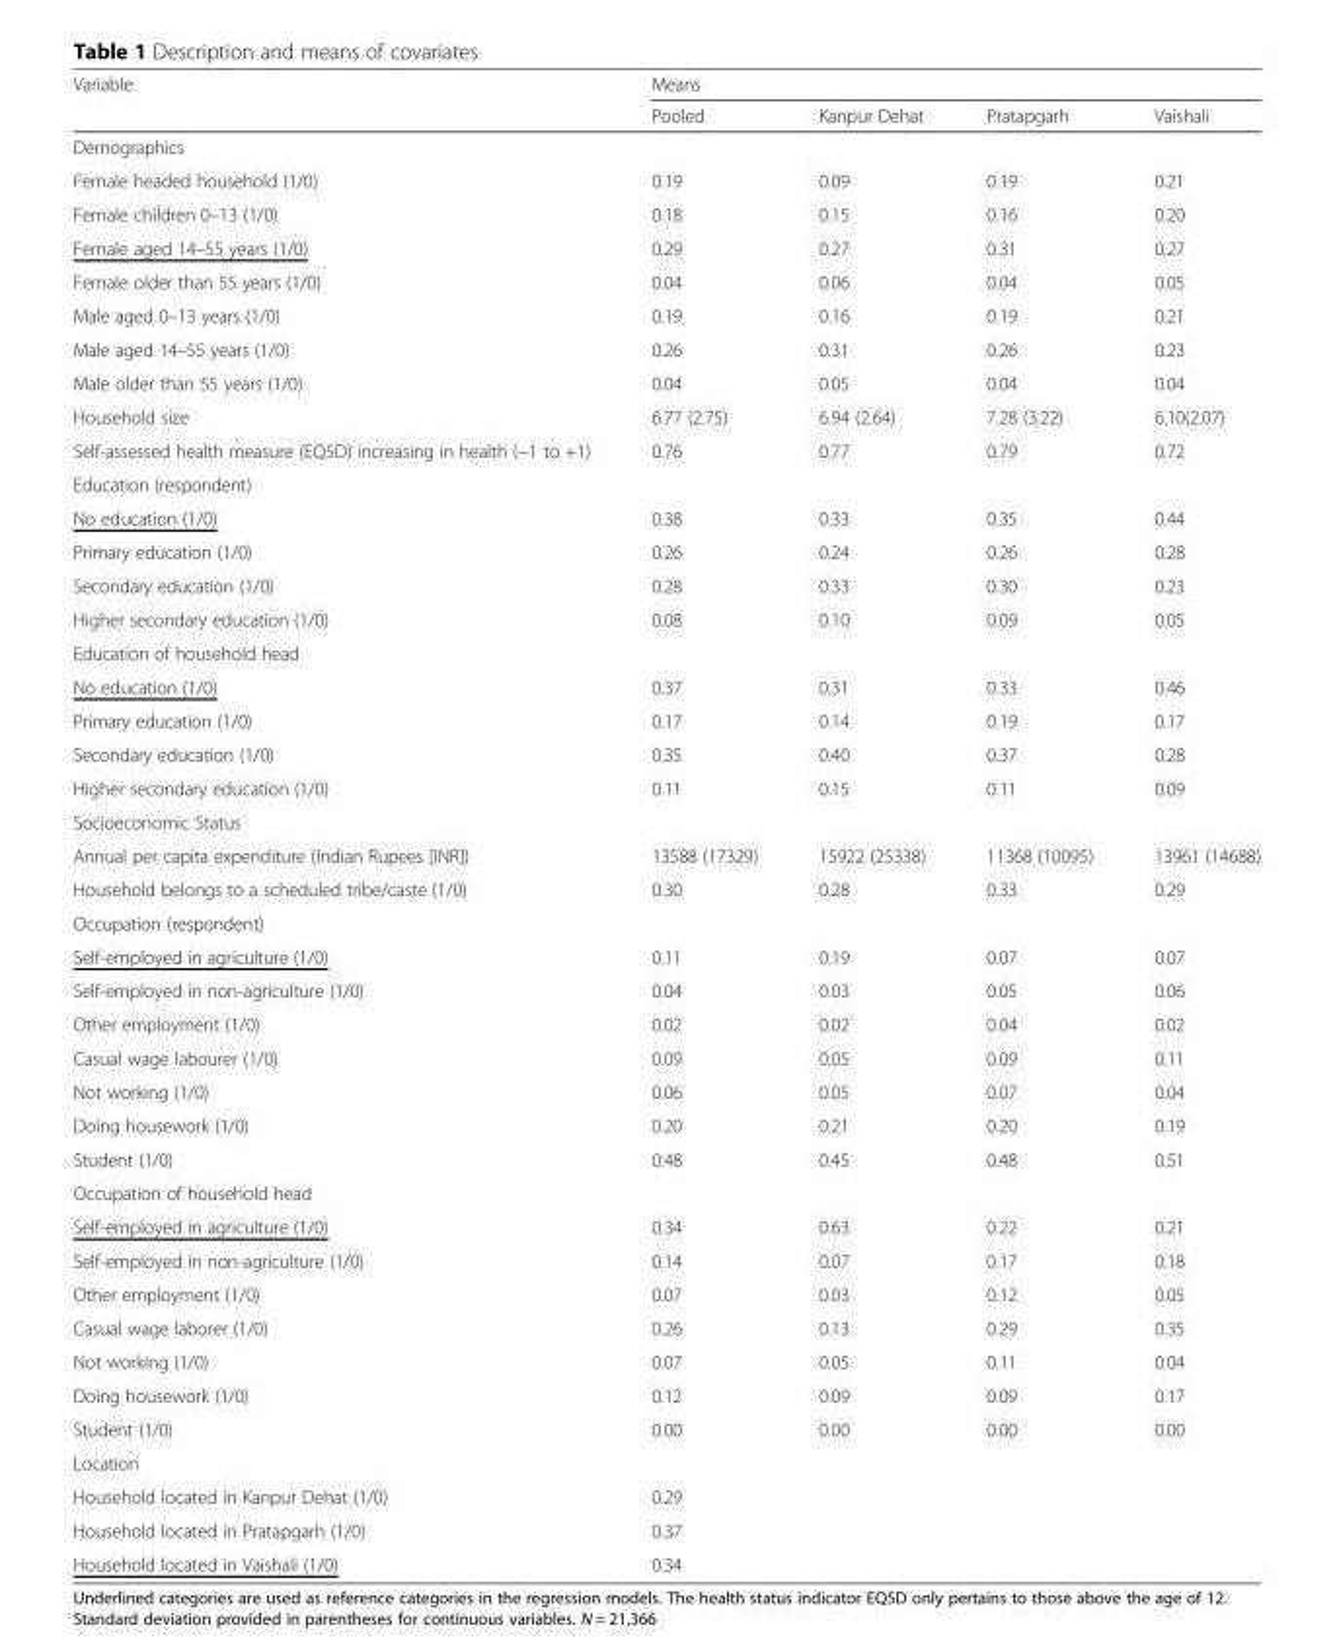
<table><thead><tr><td rowspan="2">Variable</td><td colspan="4">Means</td></tr><tr><td>Pooled</td><td>Kanpur Dehat</td><td>Pratapgarh</td><td>Vaishali</td></tr></thead><tbody><tr><td colspan="5">Demographics</td></tr><tr><td>Female headed household (1/0)</td><td>0.19</td><td>0.09</td><td>0.19</td><td>0.21</td></tr><tr><td>Female children 0–13 (1/0)</td><td>0.18</td><td>0.15</td><td>0.16</td><td>0.20</td></tr><tr><td>Female aged 14–55 years (1/0)</td><td>0.29</td><td>0.27</td><td>0.31</td><td>0.27</td></tr><tr><td>Female older than 55 years (1/0)</td><td>0.04</td><td>0.06</td><td>0.04</td><td>0.05</td></tr><tr><td>Male aged 0–13 years (1/0)</td><td>0.19</td><td>0.16</td><td>0.19</td><td>0.21</td></tr><tr><td>Male aged 14–55 years (1/0)</td><td>0.26</td><td>0.31</td><td>0.26</td><td>0.23</td></tr><tr><td>Male older than 55 years (1/0)</td><td>0.04</td><td>0.05</td><td>0.04</td><td>0.04</td></tr><tr><td>Household size</td><td>6.77 (2.75)</td><td>6.94 (2.64)</td><td>7.28 (3.22)</td><td>6.10(2.07)</td></tr><tr><td>Self-assessed health measure (EQ5D) increasing in health (−1 to +1)</td><td>0.76</td><td>0.77</td><td>0.79</td><td>0.72</td></tr><tr><td colspan="5">Education (respondent)</td></tr><tr><td>No education (1/0)</td><td>0.38</td><td>0.33</td><td>0.35</td><td>0.44</td></tr><tr><td>Primary education (1/0)</td><td>0.26</td><td>0.24</td><td>0.26</td><td>0.28</td></tr><tr><td>Secondary education (1/0)</td><td>0.28</td><td>0.33</td><td>0.30</td><td>0.23</td></tr><tr><td>Higher secondary education (1/0)</td><td>0.08</td><td>0.10</td><td>0.09</td><td>0.05</td></tr><tr><td colspan="5">Education of household head</td></tr><tr><td>No education (1/0)</td><td>0.37</td><td>0.31</td><td>0.33</td><td>0.46</td></tr><tr><td>Primary education (1/0)</td><td>0.17</td><td>0.14</td><td>0.19</td><td>0.17</td></tr><tr><td>Secondary education (1/0)</td><td>0.35</td><td>0.40</td><td>0.37</td><td>0.28</td></tr><tr><td>Higher secondary education (1/0)</td><td>0.11</td><td>0.15</td><td>0.11</td><td>0.09</td></tr><tr><td colspan="5">Socioeconomic Status</td></tr><tr><td>Annual per capita expenditure (Indian Rupees [INR])</td><td>13588 (17329)</td><td>15922 (25338)</td><td>11368 (10095)</td><td>13961 (14688)</td></tr><tr><td>Household belongs to a scheduled tribe/caste (1/0)</td><td>0.30</td><td>0.28</td><td>0.33</td><td>0.29</td></tr><tr><td colspan="5">Occupation (respondent)</td></tr><tr><td>Self-employed in agriculture (1/0)</td><td>0.11</td><td>0.19</td><td>0.07</td><td>0.07</td></tr><tr><td>Self-employed in non-agriculture (1/0)</td><td>0.04</td><td>0.03</td><td>0.05</td><td>0.06</td></tr><tr><td>Other employment (1/0)</td><td>0.02</td><td>0.02</td><td>0.04</td><td>0.02</td></tr><tr><td>Casual wage labourer (1/0)</td><td>0.09</td><td>0.05</td><td>0.09</td><td>0.11</td></tr><tr><td>Not working (1/0)</td><td>0.06</td><td>0.05</td><td>0.07</td><td>0.04</td></tr><tr><td>Doing housework (1/0)</td><td>0.20</td><td>0.21</td><td>0.20</td><td>0.19</td></tr><tr><td>Student (1/0)</td><td>0.48</td><td>0.45</td><td>0.48</td><td>0.51</td></tr><tr><td colspan="5">Occupation of household head</td></tr><tr><td>Self-employed in agriculture (1/0)</td><td>0.34</td><td>0.63</td><td>0.22</td><td>0.21</td></tr><tr><td>Self-employed in non-agriculture (1/0)</td><td>0.14</td><td>0.07</td><td>0.17</td><td>0.18</td></tr><tr><td>Other employment (1/0)</td><td>0.07</td><td>0.03</td><td>0.12</td><td>0.05</td></tr><tr><td>Casual wage laborer (1/0)</td><td>0.26</td><td>0.13</td><td>0.29</td><td>0.35</td></tr><tr><td>Not working (1/0)</td><td>0.07</td><td>0.05</td><td>0.11</td><td>0.04</td></tr><tr><td>Doing housework (1/0)</td><td>0.12</td><td>0.09</td><td>0.09</td><td>0.17</td></tr><tr><td>Student (1/0)</td><td>0.00</td><td>0.00</td><td>0.00</td><td>0.00</td></tr><tr><td colspan="5">Location</td></tr><tr><td>Household located in Kanpur Dehat (1/0)</td><td>0.29</td><td></td><td></td><td></td></tr><tr><td>Household located in Pratapgarh (1/0)</td><td>0.37</td><td></td><td></td><td></td></tr><tr><td>Household located in Vaishali (1/0)</td><td>0.34</td><td></td><td></td><td></td></tr></tbody></table>